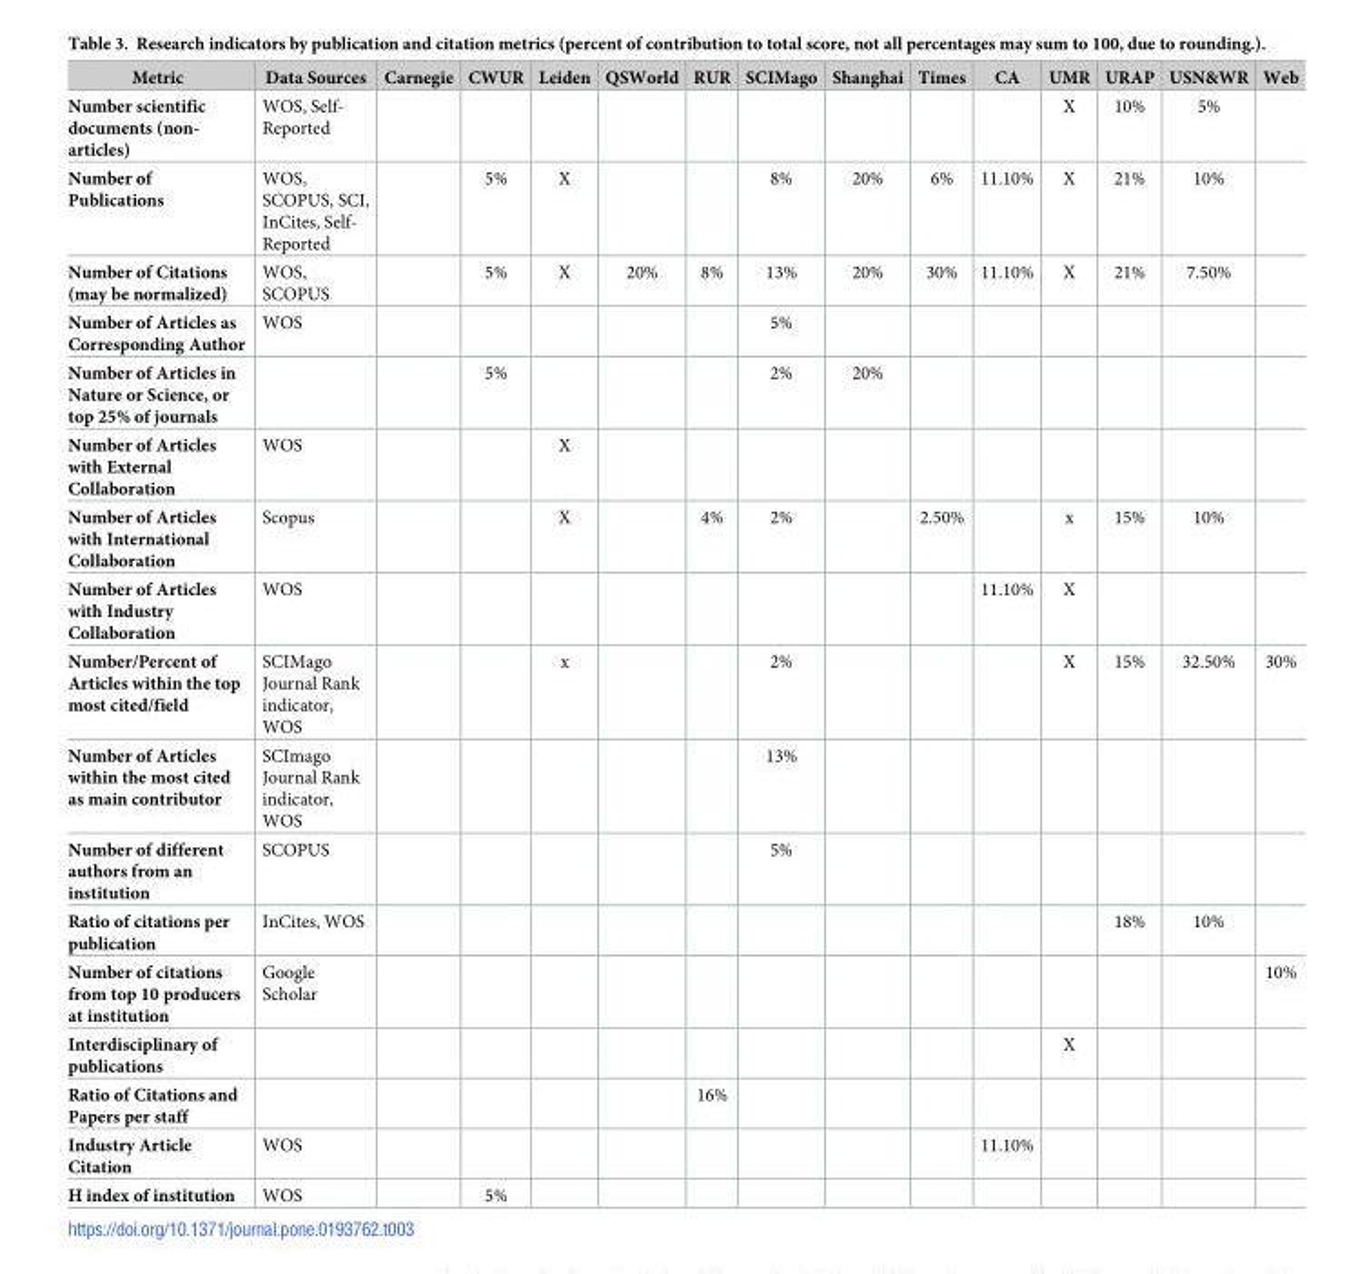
<table><thead><tr><td>Metric</td><td>Data Sources</td><td>Carnegie</td><td>CWUR</td><td>Leiden</td><td>QSWorld</td><td>RUR</td><td>SCIMago</td><td>Shanghai</td><td>Times</td><td>CA</td><td>UMR</td><td>URAP</td><td>USN&amp;WR</td><td>Web</td></tr></thead><tbody><tr><td>Number scientific documents (non- articles)</td><td>WOS, Self- Reported</td><td></td><td></td><td></td><td></td><td></td><td></td><td></td><td></td><td></td><td>X</td><td>10%</td><td>5%</td><td></td></tr><tr><td>Number of Publications</td><td>WOS, SCOPUS, SCI, InCites, Self- Reported</td><td></td><td>5%</td><td>X</td><td></td><td></td><td>8%</td><td>20%</td><td>6%</td><td>11.10%</td><td>X</td><td>21%</td><td>10%</td><td></td></tr><tr><td>Number of Citations (may be normalized)</td><td>WOS, SCOPUS</td><td></td><td>5%</td><td>X</td><td>20%</td><td>8%</td><td>13%</td><td>20%</td><td>30%</td><td>11.10%</td><td>X</td><td>21%</td><td>7.50%</td><td></td></tr><tr><td>Number of Articles as Corresponding Author</td><td>WOS</td><td></td><td></td><td></td><td></td><td></td><td>5%</td><td></td><td></td><td></td><td></td><td></td><td></td><td></td></tr><tr><td>Number of Articles in Nature or Science, or top 25% of journals</td><td></td><td></td><td>5%</td><td></td><td></td><td></td><td>2%</td><td>20%</td><td></td><td></td><td></td><td></td><td></td><td></td></tr><tr><td>Number of Articles with External Collaboration</td><td>WOS</td><td></td><td></td><td>X</td><td></td><td></td><td></td><td></td><td></td><td></td><td></td><td></td><td></td><td></td></tr><tr><td>Number of Articles with International Collaboration</td><td>Scopus</td><td></td><td></td><td>X</td><td></td><td>4%</td><td>2%</td><td></td><td>2.50%</td><td></td><td>x</td><td>15%</td><td>10%</td><td></td></tr><tr><td>Number of Articles with Industry Collaboration</td><td>WOS</td><td></td><td></td><td></td><td></td><td></td><td></td><td></td><td></td><td>11.10%</td><td>X</td><td></td><td></td><td></td></tr><tr><td>Number/Percent of Articles within the top most cited/field</td><td>SCIMago Journal Rank indicator, WOS</td><td></td><td></td><td>x</td><td></td><td></td><td>2%</td><td></td><td></td><td></td><td>X</td><td>15%</td><td>32.50%</td><td>30%</td></tr><tr><td>Number of Articles within the most cited as main contributor</td><td>SCImago Journal Rank indicator, WOS</td><td></td><td></td><td></td><td></td><td></td><td>13%</td><td></td><td></td><td></td><td></td><td></td><td></td><td></td></tr><tr><td>Number of different authors from an institution</td><td>SCOPUS</td><td></td><td></td><td></td><td></td><td></td><td>5%</td><td></td><td></td><td></td><td></td><td></td><td></td><td></td></tr><tr><td>Ratio of citations per publication</td><td>InCites, WOS</td><td></td><td></td><td></td><td></td><td></td><td></td><td></td><td></td><td></td><td></td><td>18%</td><td>10%</td><td></td></tr><tr><td>Number of citations from top 10 producers at institution</td><td>Google Scholar</td><td></td><td></td><td></td><td></td><td></td><td></td><td></td><td></td><td></td><td></td><td></td><td></td><td>10%</td></tr><tr><td>Interdisciplinary of publications</td><td></td><td></td><td></td><td></td><td></td><td></td><td></td><td></td><td></td><td></td><td>X</td><td></td><td></td><td></td></tr><tr><td>Ratio of Citations and Papers per staff</td><td></td><td></td><td></td><td></td><td></td><td>16%</td><td></td><td></td><td></td><td></td><td></td><td></td><td></td><td></td></tr><tr><td>Industry Article Citation</td><td>WOS</td><td></td><td></td><td></td><td></td><td></td><td></td><td></td><td></td><td>11.10%</td><td></td><td></td><td></td><td></td></tr><tr><td>H index of institution</td><td>WOS</td><td></td><td>5%</td><td></td><td></td><td></td><td></td><td></td><td></td><td></td><td></td><td></td><td></td><td></td></tr></tbody></table>